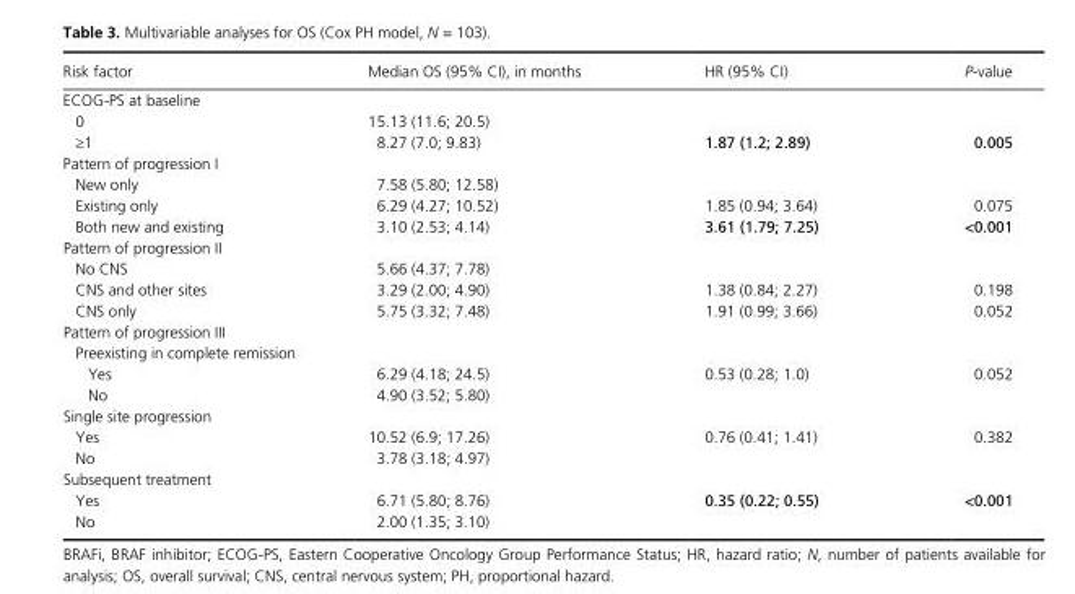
<table><thead><tr><td>Risk factor</td><td>Median OS (95% CI), in months</td><td>HR (95% CI)</td><td>P- value</td></tr></thead><tbody><tr><td colspan="4">ECOG- PS at baseline</td></tr><tr><td>0</td><td>15.13 (11.6; 20.5)</td><td></td><td></td></tr><tr><td>≥1</td><td>8.27 (7.0; 9.83)</td><td>1.87 (1.2; 2.89)</td><td>0.005</td></tr><tr><td colspan="4">Pattern of progression I</td></tr><tr><td>New only</td><td>7.58 (5.80; 12.58)</td><td></td><td></td></tr><tr><td>Existing only</td><td>6.29 (4.27; 10.52)</td><td>1.85 (0.94; 3.64)</td><td>0.075</td></tr><tr><td>Both new and existing</td><td>3.10 (2.53; 4.14)</td><td>3.61 (1.79; 7.25)</td><td>&lt;0.001</td></tr><tr><td colspan="4">Pattern of progression II</td></tr><tr><td>No CNS</td><td>5.66 (4.37; 7.78)</td><td></td><td></td></tr><tr><td>CNS and other sites</td><td>3.29 (2.00; 4.90)</td><td>1.38 (0.84; 2.27)</td><td>0.198</td></tr><tr><td>CNS only</td><td>5.75 (3.32; 7.48)</td><td>1.91 (0.99; 3.66)</td><td>0.052</td></tr><tr><td colspan="4">Pattern of progression III</td></tr><tr><td colspan="4">Preexisting in complete remission</td></tr><tr><td>Yes</td><td>6.29 (4.18; 24.5)</td><td>0.53 (0.28; 1.0)</td><td>0.052</td></tr><tr><td>No</td><td>4.90 (3.52; 5.80)</td><td></td><td></td></tr><tr><td colspan="4">Single site progression</td></tr><tr><td>Yes</td><td>10.52 (6.9; 17.26)</td><td>0.76 (0.41; 1.41)</td><td>0.382</td></tr><tr><td>No</td><td>3.78 (3.18; 4.97)</td><td></td><td></td></tr><tr><td colspan="4">Subsequent treatment</td></tr><tr><td>Yes</td><td>6.71 (5.80; 8.76)</td><td>0.35 (0.22; 0.55)</td><td>&lt;0.001</td></tr><tr><td>No</td><td>2.00 (1.35; 3.10)</td><td></td><td></td></tr></tbody></table>